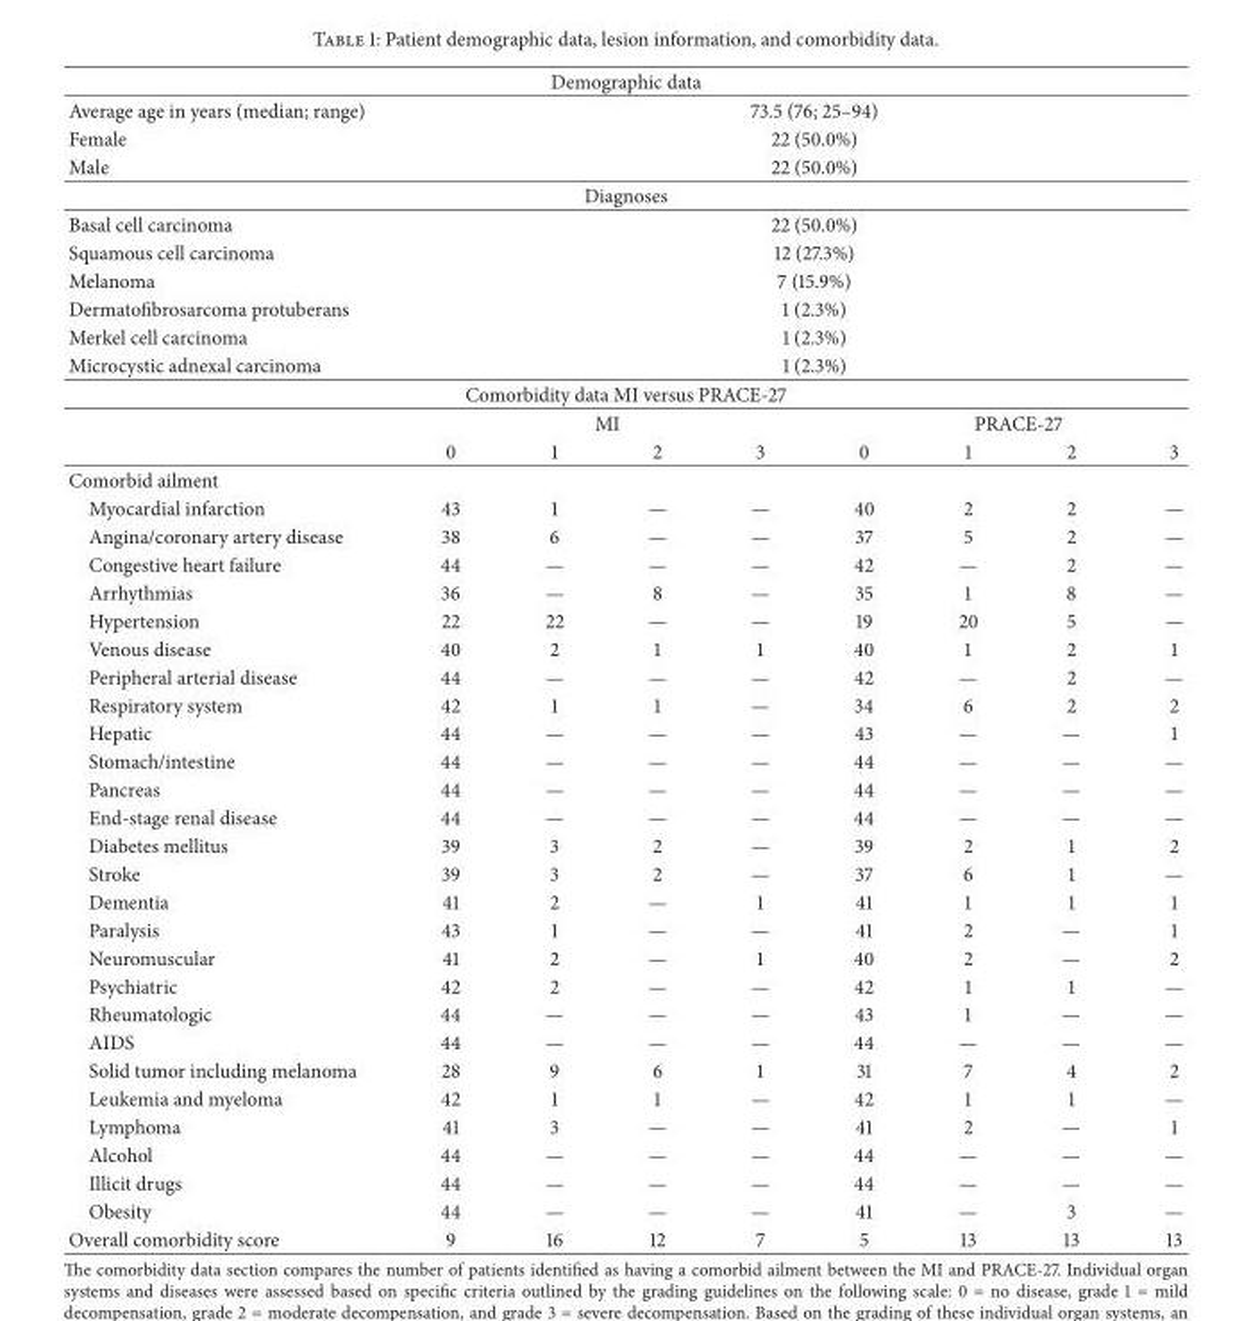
<table><thead><tr><td colspan="9">Demographic data</td></tr></thead><tbody><tr><td>Average age in years (median; range)</td><td colspan="8">73.5 (76; 25–94)</td></tr><tr><td>Female</td><td colspan="8">22 (50.0%)</td></tr><tr><td>Male</td><td colspan="8">22 (50.0%)</td></tr><tr><td colspan="9">Diagnoses</td></tr><tr><td>Basal cell carcinoma</td><td colspan="8">22 (50.0%)</td></tr><tr><td>Squamous cell carcinoma</td><td colspan="8">12 (27.3%)</td></tr><tr><td>Melanoma</td><td colspan="8">7 (15.9%)</td></tr><tr><td>Dermatofibrosarcoma protuberans</td><td colspan="8">1 (2.3%)</td></tr><tr><td>Merkel cell carcinoma</td><td colspan="8">1 (2.3%)</td></tr><tr><td>Microcystic adnexal carcinoma</td><td colspan="8">1 (2.3%)</td></tr><tr><td colspan="9">Comorbidity data MI versus PRACE-27</td></tr><tr><td></td><td colspan="4">MI</td><td colspan="4">PRACE-27</td></tr><tr><td></td><td>0</td><td>1</td><td>2</td><td>3</td><td>0</td><td>1</td><td>2</td><td>3</td></tr><tr><td colspan="9">Comorbid ailment</td></tr><tr><td>Myocardial infarction</td><td>43</td><td>1</td><td>—</td><td>—</td><td>40</td><td>2</td><td>2</td><td>—</td></tr><tr><td>Angina/coronary artery disease</td><td>38</td><td>6</td><td>—</td><td>—</td><td>37</td><td>5</td><td>2</td><td>—</td></tr><tr><td>Congestive heart failure</td><td>44</td><td>—</td><td>—</td><td>—</td><td>42</td><td>—</td><td>2</td><td>—</td></tr><tr><td>Arrhythmias</td><td>36</td><td>—</td><td>8</td><td>—</td><td>35</td><td>1</td><td>8</td><td>—</td></tr><tr><td>Hypertension</td><td>22</td><td>22</td><td>—</td><td>—</td><td>19</td><td>20</td><td>5</td><td>—</td></tr><tr><td>Venous disease</td><td>40</td><td>2</td><td>1</td><td>1</td><td>40</td><td>1</td><td>2</td><td>1</td></tr><tr><td>Peripheral arterial disease</td><td>44</td><td>—</td><td>—</td><td>—</td><td>42</td><td>—</td><td>2</td><td>—</td></tr><tr><td>Respiratory system</td><td>42</td><td>1</td><td>1</td><td>—</td><td>34</td><td>6</td><td>2</td><td>2</td></tr><tr><td>Hepatic</td><td>44</td><td>—</td><td>—</td><td>—</td><td>43</td><td>—</td><td>—</td><td>1</td></tr><tr><td>Stomach/intestine</td><td>44</td><td>—</td><td>—</td><td>—</td><td>44</td><td>—</td><td>—</td><td>—</td></tr><tr><td>Pancreas</td><td>44</td><td>—</td><td>—</td><td>—</td><td>44</td><td>—</td><td>—</td><td>—</td></tr><tr><td>End-stage renal disease</td><td>44</td><td>—</td><td>—</td><td>—</td><td>44</td><td>—</td><td>—</td><td>—</td></tr><tr><td>Diabetes mellitus</td><td>39</td><td>3</td><td>2</td><td>—</td><td>39</td><td>2</td><td>1</td><td>2</td></tr><tr><td>Stroke</td><td>39</td><td>3</td><td>2</td><td>—</td><td>37</td><td>6</td><td>1</td><td>—</td></tr><tr><td>Dementia</td><td>41</td><td>2</td><td>—</td><td>1</td><td>41</td><td>1</td><td>1</td><td>1</td></tr><tr><td>Paralysis</td><td>43</td><td>1</td><td>—</td><td>—</td><td>41</td><td>2</td><td>—</td><td>1</td></tr><tr><td>Neuromuscular</td><td>41</td><td>2</td><td>—</td><td>1</td><td>40</td><td>2</td><td>—</td><td>2</td></tr><tr><td>Psychiatric</td><td>42</td><td>2</td><td>—</td><td>—</td><td>42</td><td>1</td><td>1</td><td>—</td></tr><tr><td>Rheumatologic</td><td>44</td><td>—</td><td>—</td><td>—</td><td>43</td><td>1</td><td>—</td><td>—</td></tr><tr><td>AIDS</td><td>44</td><td>—</td><td>—</td><td>—</td><td>44</td><td>—</td><td>—</td><td>—</td></tr><tr><td>Solid tumor including melanoma</td><td>28</td><td>9</td><td>6</td><td>1</td><td>31</td><td>7</td><td>4</td><td>2</td></tr><tr><td>Leukemia and myeloma</td><td>42</td><td>1</td><td>1</td><td>—</td><td>42</td><td>1</td><td>1</td><td>—</td></tr><tr><td>Lymphoma</td><td>41</td><td>3</td><td>—</td><td>—</td><td>41</td><td>2</td><td>—</td><td>1</td></tr><tr><td>Alcohol</td><td>44</td><td>—</td><td>—</td><td>—</td><td>44</td><td>—</td><td>—</td><td>—</td></tr><tr><td>Illicit drugs</td><td>44</td><td>—</td><td>—</td><td>—</td><td>44</td><td>—</td><td>—</td><td>—</td></tr><tr><td>Obesity</td><td>44</td><td>—</td><td>—</td><td>—</td><td>41</td><td>—</td><td>3</td><td>—</td></tr><tr><td>Overall comorbidity score</td><td>9</td><td>16</td><td>12</td><td>7</td><td>5</td><td>13</td><td>13</td><td>13</td></tr></tbody></table>